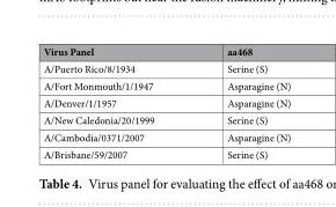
<table><thead><tr><td>Virus Panel</td><td>aa468</td></tr></thead><tbody><tr><td>A/Puerto Rico/8/1934</td><td>Serine (S)</td></tr><tr><td>A/Fort Monmouth/1/1947</td><td>Asparagine (N)</td></tr><tr><td>A/Denver/1/1957</td><td>Asparagine (N)</td></tr><tr><td>A/New Caledonia/20/1999</td><td>Serine (S)</td></tr><tr><td>A/Cambodia/0371/2007</td><td>Asparagine (N)</td></tr><tr><td>A/Brisbane/59/2007</td><td>Serine (S)</td></tr></tbody></table>